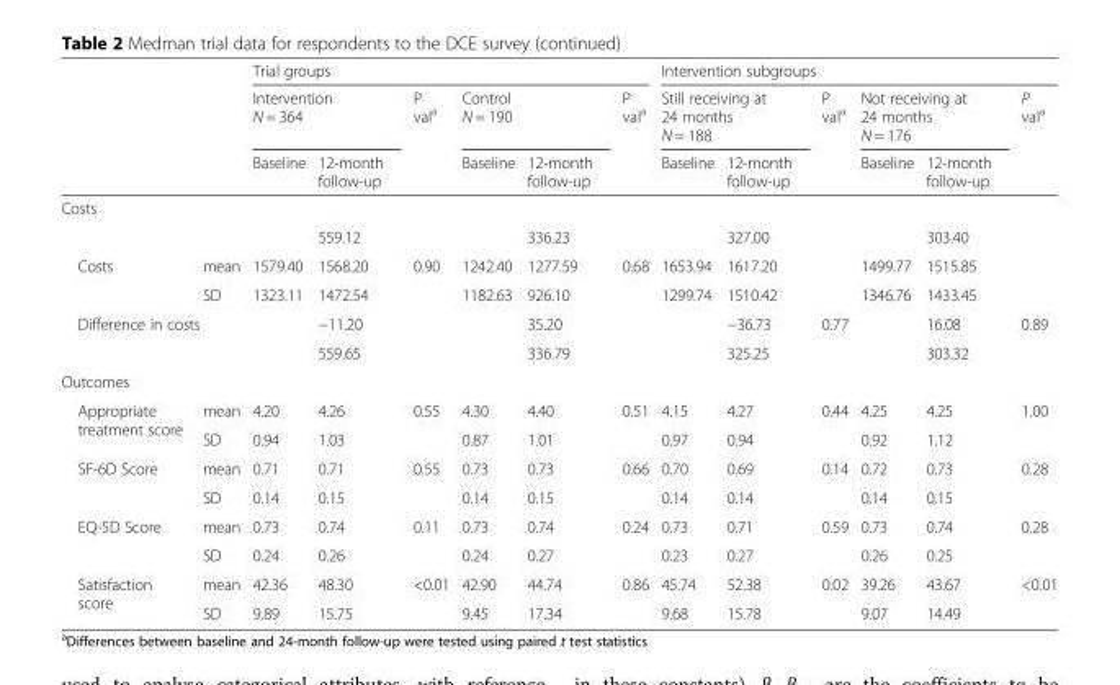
<table><thead><tr><td rowspan="3"></td><td rowspan="3"></td><td colspan="6">Trial groups</td><td colspan="6">Intervention subgroups</td></tr><tr><td colspan="2">Intervention N = 364</td><td rowspan="2">P val<sup>a</sup></td><td colspan="2">Control N = 190</td><td rowspan="2">P val<sup>a</sup></td><td colspan="2">Still receiving at 24 months N = 188</td><td rowspan="2">P val<sup>a</sup></td><td colspan="2">Not receiving at 24 months N = 176</td><td rowspan="2">P val<sup>a</sup></td></tr><tr><td>Baseline</td><td>12-month follow-up</td><td>Baseline</td><td>12-month follow-up</td><td>Baseline</td><td>12-month follow-up</td><td>Baseline</td><td>12-month follow-up</td></tr></thead><tbody><tr><td colspan="14">Costs</td></tr><tr><td colspan="3"></td><td>559.12</td><td colspan="2"></td><td>336.23</td><td colspan="2"></td><td>327.00</td><td colspan="2"></td><td>303.40</td><td></td></tr><tr><td rowspan="2">Costs</td><td>mean</td><td>1579.40</td><td>1568.20</td><td rowspan="2">0.90</td><td>1242.40</td><td>1277.59</td><td rowspan="2">0.68</td><td>1653.94</td><td>1617.20</td><td rowspan="2"></td><td>1499.77</td><td>1515.85</td><td rowspan="2"></td></tr><tr><td>SD</td><td>1323.11</td><td>1472.54</td><td>1182.63</td><td>926.10</td><td>1299.74</td><td>1510.42</td><td>1346.76</td><td>1433.45</td></tr><tr><td rowspan="2" colspan="3">Difference in costs</td><td>−11.20</td><td rowspan="2" colspan="2"></td><td>35.20</td><td rowspan="2"></td><td rowspan="2"></td><td>−36.73</td><td rowspan="2">0.77</td><td rowspan="2"></td><td>16.08</td><td rowspan="2">0.89</td></tr><tr><td>559.65</td><td>336.79</td><td>325.25</td><td>303.32</td></tr><tr><td colspan="14">Outcomes</td></tr><tr><td rowspan="2">Appropriate treatment score</td><td>mean</td><td>4.20</td><td>4.26</td><td rowspan="2">0.55</td><td>4.30</td><td>4.40</td><td rowspan="2">0.51</td><td>4.15</td><td>4.27</td><td rowspan="2">0.44</td><td>4.25</td><td>4.25</td><td rowspan="2">1.00</td></tr><tr><td>SD</td><td>0.94</td><td>1.03</td><td>0.87</td><td>1.01</td><td>0.97</td><td>0.94</td><td>0.92</td><td>1.12</td></tr><tr><td rowspan="2">SF-6D Score</td><td>mean</td><td>0.71</td><td>0.71</td><td rowspan="2">0.55</td><td>0.73</td><td>0.73</td><td rowspan="2">0.66</td><td>0.70</td><td>0.69</td><td rowspan="2">0.14</td><td>0.72</td><td>0.73</td><td rowspan="2">0.28</td></tr><tr><td>SD</td><td>0.14</td><td>0.15</td><td>0.14</td><td>0.15</td><td>0.14</td><td>0.14</td><td>0.14</td><td>0.15</td></tr><tr><td rowspan="2">EQ-5D Score</td><td>mean</td><td>0.73</td><td>0.74</td><td rowspan="2">0.11</td><td>0.73</td><td>0.74</td><td rowspan="2">0.24</td><td>0.73</td><td>0.71</td><td rowspan="2">0.59</td><td>0.73</td><td>0.74</td><td rowspan="2">0.28</td></tr><tr><td>SD</td><td>0.24</td><td>0.26</td><td>0.24</td><td>0.27</td><td>0.23</td><td>0.27</td><td>0.26</td><td>0.25</td></tr><tr><td rowspan="2">Satisfaction score</td><td>mean</td><td>42.36</td><td>48.30</td><td rowspan="2">&lt;0.01</td><td>42.90</td><td>44.74</td><td rowspan="2">0.86</td><td>45.74</td><td>52.38</td><td rowspan="2">0.02</td><td>39.26</td><td>43.67</td><td rowspan="2">&lt;0.01</td></tr><tr><td>SD</td><td>9.89</td><td>15.75</td><td>9.45</td><td>17.34</td><td>9.68</td><td>15.78</td><td>9.07</td><td>14.49</td></tr></tbody></table>